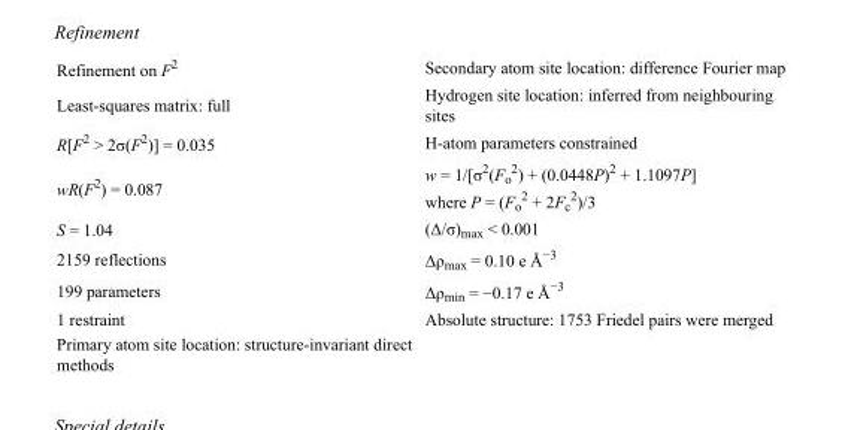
<table><tbody><tr><td>Refinement on F<sup>2</sup></td><td>Secondary atom site location: difference Fourier map</td></tr><tr><td>Least-squares matrix: full</td><td>Hydrogen site location: inferred from neighbouring sites</td></tr><tr><td>R[F<sup>2</sup> &gt; 2σ(F<sup>2</sup>)] = 0.035</td><td>H-atom parameters constrained</td></tr><tr><td>wR(F<sup>2</sup>) = 0.087</td><td>w = 1/[σ<sup>2</sup>(F<sub>o</sub> <sup>2</sup>) + (0.0448P)<sup>2</sup> + 1.1097P] where P = (F<sub>o</sub> <sup>2</sup> + 2F<sub>c</sub> <sup>2</sup>)/3</td></tr><tr><td>S = 1.04</td><td>(Δ/σ)<sub>max</sub> &lt; 0.001</td></tr><tr><td>2159 reflections</td><td>Δρ<sub>max</sub> = 0.10 e Å<sup>−3</sup></td></tr><tr><td>199 parameters</td><td>Δρ<sub>min</sub> = −0.17 e Å<sup>−3</sup></td></tr><tr><td>1 restraint</td><td>Absolute structure: 1753 Friedel pairs were merged</td></tr><tr><td>Primary atom site location: structure-invariant direct methods</td><td></td></tr></tbody></table>